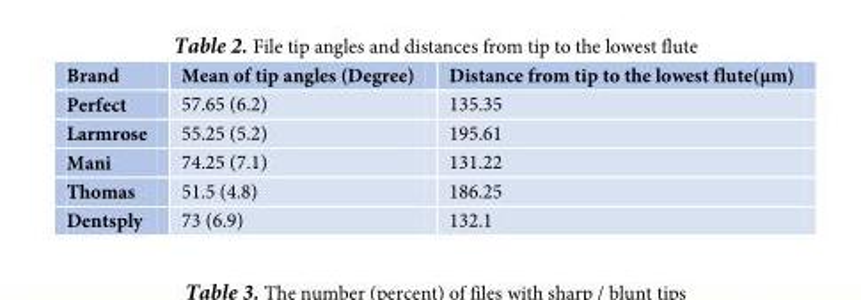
<table><thead><tr><td>Brand</td><td>Mean of tip angles (Degree)</td><td>Distance from tip to the lowest flute(µm)</td></tr></thead><tbody><tr><td>Perfect</td><td>57.65 (6.2)</td><td>135.35</td></tr><tr><td>Larmrose</td><td>55.25 (5.2)</td><td>195.61</td></tr><tr><td>Mani</td><td>74.25 (7.1)</td><td>131.22</td></tr><tr><td>Thomas</td><td>51.5 (4.8)</td><td>186.25</td></tr><tr><td>Dentsply</td><td>73 (6.9)</td><td>132.1</td></tr></tbody></table>